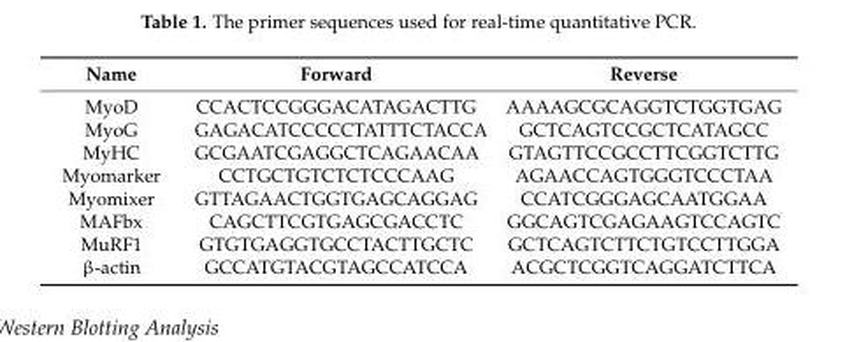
<table><thead><tr><td>Name</td><td>Forward</td><td>Reverse</td></tr></thead><tbody><tr><td>MyoD</td><td>CCACTCCGGGACATAGACTTG</td><td>AAAAGCGCAGGTCTGGTGAG</td></tr><tr><td>MyoG</td><td>GAGACATCCCCCTATTTCTACCA</td><td>GCTCAGTCCGCTCATAGCC</td></tr><tr><td>MyHC</td><td>GCGAATCGAGGCTCAGAACAA</td><td>GTAGTTCCGCCTTCGGTCTTG</td></tr><tr><td>Myomarker</td><td>CCTGCTGTCTCTCCCAAG</td><td>AGAACCAGTGGGTCCCTAA</td></tr><tr><td>Myomixer</td><td>GTTAGAACTGGTGAGCAGGAG</td><td>CCATCGGGAGCAATGGAA</td></tr><tr><td>MAFbx</td><td>CAGCTTCGTGAGCGACCTC</td><td>GGCAGTCGAGAAGTCCAGTC</td></tr><tr><td>MuRF1</td><td>GTGTGAGGTGCCTACTTGCTC</td><td>GCTCAGTCTTCTGTCCTTGGA</td></tr><tr><td>β-actin</td><td>GCCATGTACGTAGCCATCCA</td><td>ACGCTCGGTCAGGATCTTCA</td></tr></tbody></table>